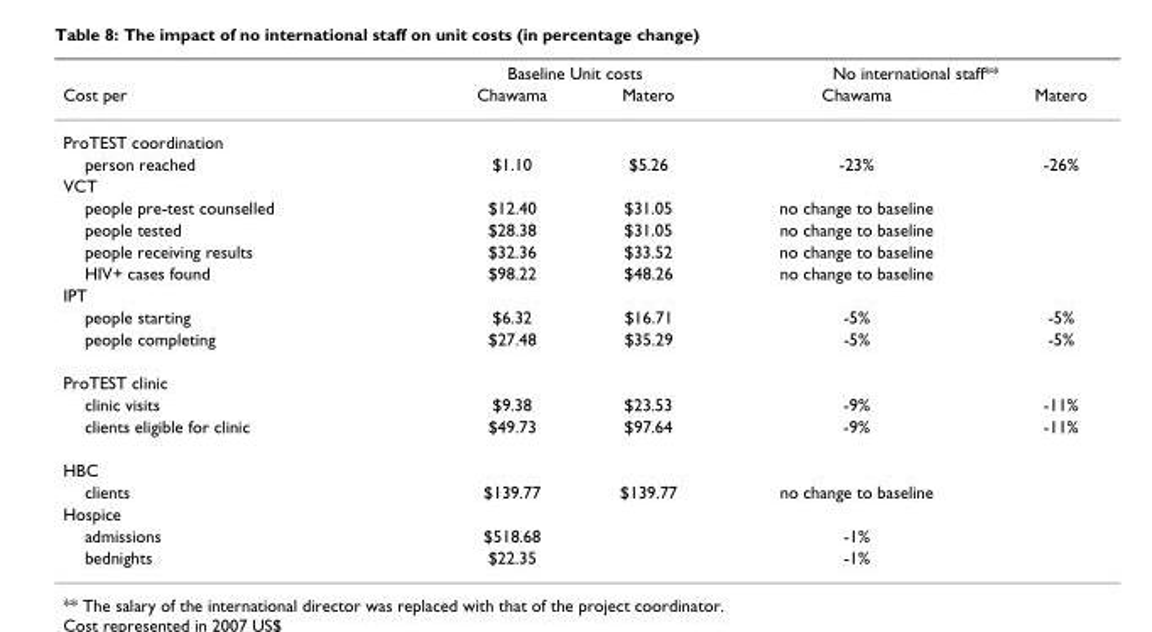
<table><thead><tr><td rowspan="2">Cost per</td><td colspan="2">Baseline Unit costs</td><td colspan="2">No international staff**</td></tr><tr><td>Chawama</td><td>Matero</td><td>Chawama</td><td>Matero</td></tr></thead><tbody><tr><td colspan="5">ProTEST coordination</td></tr><tr><td>person reached</td><td>$1.10</td><td>$5.26</td><td>-23%</td><td>-26%</td></tr><tr><td colspan="5">VCT</td></tr><tr><td>people pre-test counselled</td><td>$12.40</td><td>$31.05</td><td>no change to baseline</td><td></td></tr><tr><td>people tested</td><td>$28.38</td><td>$31.05</td><td>no change to baseline</td><td></td></tr><tr><td>people receiving results</td><td>$32.36</td><td>$33.52</td><td>no change to baseline</td><td></td></tr><tr><td>HIV+ cases found</td><td>$98.22</td><td>$48.26</td><td>no change to baseline</td><td></td></tr><tr><td colspan="5">IPT</td></tr><tr><td>people starting</td><td>$6.32</td><td>$16.71</td><td>-5%</td><td>-5%</td></tr><tr><td>people completing</td><td>$27.48</td><td>$35.29</td><td>-5%</td><td>-5%</td></tr><tr><td colspan="5">ProTEST clinic</td></tr><tr><td>clinic visits</td><td>$9.38</td><td>$23.53</td><td>-9%</td><td>-11%</td></tr><tr><td>clients eligible for clinic</td><td>$49.73</td><td>$97.64</td><td>-9%</td><td>-11%</td></tr><tr><td colspan="5">HBC</td></tr><tr><td>clients</td><td>$139.77</td><td>$139.77</td><td>no change to baseline</td><td></td></tr><tr><td colspan="5">Hospice</td></tr><tr><td>admissions</td><td>$518.68</td><td></td><td>-1%</td><td></td></tr><tr><td>bednights</td><td>$22.35</td><td></td><td>-1%</td><td></td></tr></tbody></table>